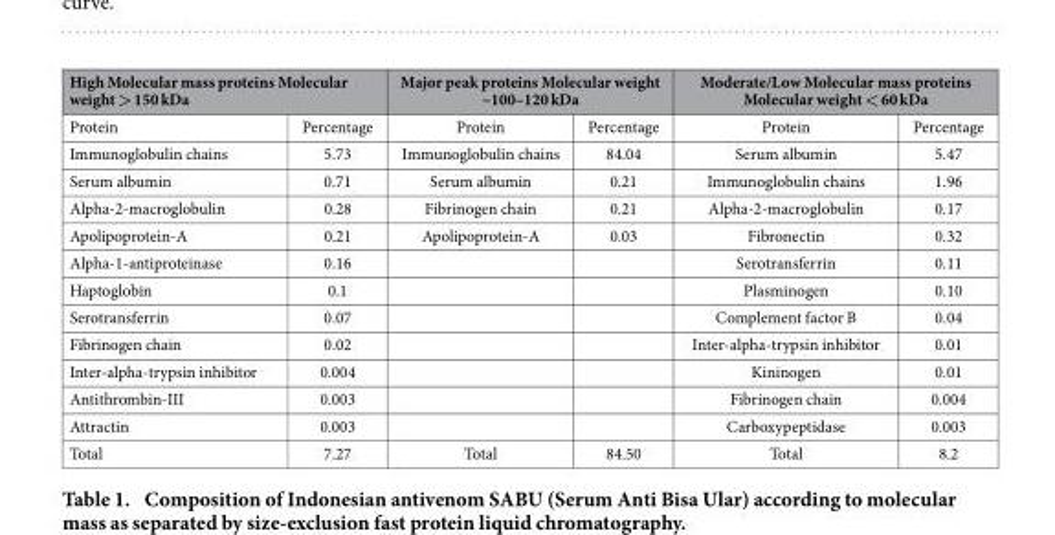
<table><thead><tr><td colspan="2">High Molecular mass proteins Molecular weight &gt; 150 kDa</td><td colspan="2">Major peak proteins Molecular weight ~100–120 kDa</td><td colspan="2">Moderate/Low Molecular mass proteins Molecular weight &lt; 60 kDa</td></tr><tr><td>Protein</td><td>Percentage</td><td>Protein</td><td>Percentage</td><td>Protein</td><td>Percentage</td></tr></thead><tbody><tr><td>Immunoglobulin chains</td><td>5.73</td><td>Immunoglobulin chains</td><td>84.04</td><td>Serum albumin</td><td>5.47</td></tr><tr><td>Serum albumin</td><td>0.71</td><td>Serum albumin</td><td>0.21</td><td>Immunoglobulin chains</td><td>1.96</td></tr><tr><td>Alpha-2-macroglobulin</td><td>0.28</td><td>Fibrinogen chain</td><td>0.21</td><td>Alpha-2-macroglobulin</td><td>0.17</td></tr><tr><td>Apolipoprotein-A</td><td>0.21</td><td>Apolipoprotein-A</td><td>0.03</td><td>Fibronectin</td><td>0.32</td></tr><tr><td>Alpha-1-antiproteinase</td><td>0.16</td><td></td><td></td><td>Serotransferrin</td><td>0.11</td></tr><tr><td>Haptoglobin</td><td>0.1</td><td></td><td></td><td>Plasminogen</td><td>0.10</td></tr><tr><td>Serotransferrin</td><td>0.07</td><td></td><td></td><td>Complement factor B</td><td>0.04</td></tr><tr><td>Fibrinogen chain</td><td>0.02</td><td></td><td></td><td>Inter-alpha-trypsin inhibitor</td><td>0.01</td></tr><tr><td>Inter-alpha-trypsin inhibitor</td><td>0.004</td><td></td><td></td><td>Kininogen</td><td>0.01</td></tr><tr><td>Antithrombin-III</td><td>0.003</td><td></td><td></td><td>Fibrinogen chain</td><td>0.004</td></tr><tr><td>Attractin</td><td>0.003</td><td></td><td></td><td>Carboxypeptidase</td><td>0.003</td></tr><tr><td>Total</td><td>7.27</td><td>Total</td><td>84.50</td><td>Total</td><td>8.2</td></tr></tbody></table>